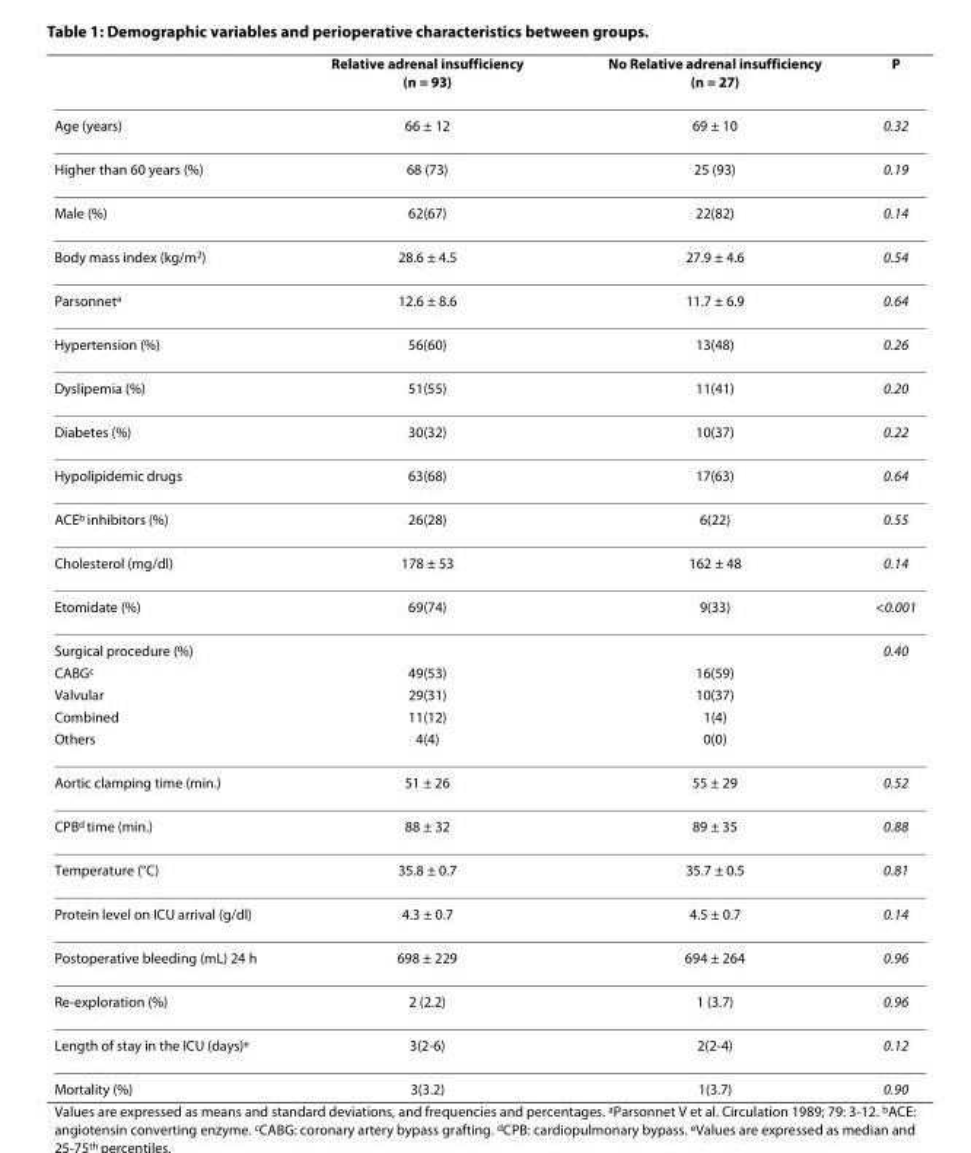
<table><thead><tr><td></td><td>Relative adrenal insufficiency (n = 93)</td><td>No Relative adrenal insufficiency (n = 27)</td><td>P</td></tr></thead><tbody><tr><td>Age (years)</td><td>66 ± 12</td><td>69 ± 10</td><td>0.32</td></tr><tr><td>Higher than 60 years (%)</td><td>68 (73)</td><td>25 (93)</td><td>0.19</td></tr><tr><td>Male (%)</td><td>62(67)</td><td>22(82)</td><td>0.14</td></tr><tr><td>Body mass index (kg/m<sup>2</sup>)</td><td>28.6 ± 4.5</td><td>27.9 ± 4.6</td><td>0.54</td></tr><tr><td>Parsonnet<sup>a</sup></td><td>12.6 ± 8.6</td><td>11.7 ± 6.9</td><td>0.64</td></tr><tr><td>Hypertension (%)</td><td>56(60)</td><td>13(48)</td><td>0.26</td></tr><tr><td>Dyslipemia (%)</td><td>51(55)</td><td>11(41)</td><td>0.20</td></tr><tr><td>Diabetes (%)</td><td>30(32)</td><td>10(37)</td><td>0.22</td></tr><tr><td>Hypolipidemic drugs</td><td>63(68)</td><td>17(63)</td><td>0.64</td></tr><tr><td>ACE<sup>b</sup> inhibitors (%)</td><td>26(28)</td><td>6(22)</td><td>0.55</td></tr><tr><td>Cholesterol (mg/dl)</td><td>178 ± 53</td><td>162 ± 48</td><td>0.14</td></tr><tr><td>Etomidate (%)</td><td>69(74)</td><td>9(33)</td><td>&lt;0.001</td></tr><tr><td>Surgical procedure (%)</td><td></td><td></td><td>0.40</td></tr><tr><td>CABG<sup>c</sup></td><td>49(53)</td><td>16(59)</td><td></td></tr><tr><td>Valvular</td><td>29(31)</td><td>10(37)</td><td></td></tr><tr><td>Combined</td><td>11(12)</td><td>1(4)</td><td></td></tr><tr><td>Others</td><td>4(4)</td><td>0(0)</td><td></td></tr><tr><td>Aortic clamping time (min.)</td><td>51 ± 26</td><td>55 ± 29</td><td>0.52</td></tr><tr><td>CPB<sup>d</sup> time (min.)</td><td>88 ± 32</td><td>89 ± 35</td><td>0.88</td></tr><tr><td>Temperature (°C)</td><td>35.8 ± 0.7</td><td>35.7 ± 0.5</td><td>0.81</td></tr><tr><td>Protein level on ICU arrival (g/dl)</td><td>4.3 ± 0.7</td><td>4.5 ± 0.7</td><td>0.14</td></tr><tr><td>Postoperative bleeding (mL) 24 h</td><td>698 ± 229</td><td>694 ± 264</td><td>0.96</td></tr><tr><td>Re-exploration (%)</td><td>2 (2.2)</td><td>1 (3.7)</td><td>0.96</td></tr><tr><td>Length of stay in the ICU (days)<sup>e</sup></td><td>3(2-6)</td><td>2(2-4)</td><td>0.12</td></tr><tr><td>Mortality (%)</td><td>3(3.2)</td><td>1(3.7)</td><td>0.90</td></tr></tbody></table>